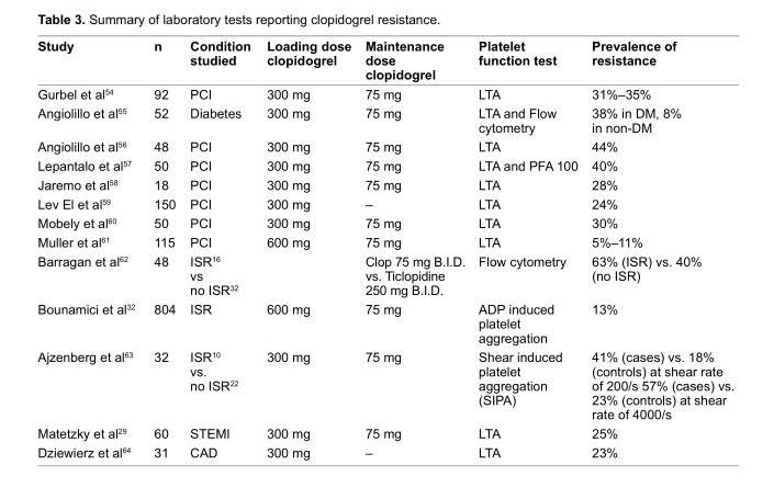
<table><thead><tr><td>study</td><td>n</td><td>condition studied</td><td>Loading dose clopidogrel</td><td>Maintenance dose clopidogrel</td><td>platelet function test</td><td>prevalence of resistance</td></tr></thead><tbody><tr><td>Gurbel et al<sup>54</sup></td><td>92</td><td>PCi</td><td>300 mg</td><td>75 mg</td><td>LTA</td><td>31%–35%</td></tr><tr><td>Angiolillo et al<sup>55</sup></td><td>52</td><td>Diabetes</td><td>300 mg</td><td>75 mg</td><td>LTA and Flow cytometry</td><td>38% in DM, 8% in non-DM</td></tr><tr><td>Angiolillo et al<sup>56</sup></td><td>48</td><td>PCi</td><td>300 mg</td><td>75 mg</td><td>LTA</td><td>44%</td></tr><tr><td>Lepantalo et al<sup>57</sup></td><td>50</td><td>PCi</td><td>300 mg</td><td>75 mg</td><td>LTA and PFA 100</td><td>40%</td></tr><tr><td>Jaremo et al<sup>58</sup></td><td>18</td><td>PCi</td><td>300 mg</td><td>75 mg</td><td>LTA</td><td>28%</td></tr><tr><td>Lev el et al<sup>59</sup></td><td>150</td><td>PCi</td><td>300 mg</td><td>–</td><td>LTA</td><td>24%</td></tr><tr><td>Mobely et al<sup>60</sup></td><td>50</td><td>PCi</td><td>300 mg</td><td>75 mg</td><td>LTA</td><td>30%</td></tr><tr><td>Muller et al<sup>61</sup></td><td>115</td><td>PCi</td><td>600 mg</td><td>75 mg</td><td>LTA</td><td>5%–11%</td></tr><tr><td>Barragan et al<sup>62</sup></td><td>48</td><td>iSR<sup>16</sup> vs no iSR<sup>32</sup></td><td></td><td>Clop 75 mg B.i.D. vs. Ticlopidine 250 mg B.i.D.</td><td>Flow cytometry</td><td>63% (iSR) vs. 40% (no iSR)</td></tr><tr><td>Bounamici et al<sup>32</sup></td><td>804</td><td>iSR</td><td>600 mg</td><td>75 mg</td><td>ADP induced platelet aggregation</td><td>13%</td></tr><tr><td>Ajzenberg et al<sup>63</sup></td><td>32</td><td>iSR<sup>10</sup> vs. no iSR<sup>22</sup></td><td>300 mg</td><td>75 mg</td><td>Shear induced platelet aggregation (SiPA)</td><td>41% (cases) vs. 18% (controls) at shear rate of 200/s 57% (cases) vs. 23% (controls) at shear rate of 4000/s</td></tr><tr><td>Matetzky et al<sup>29</sup></td><td>60</td><td>STeMi</td><td>300 mg</td><td>75 mg</td><td>LTA</td><td>25%</td></tr><tr><td>Dziewierz et al<sup>64</sup></td><td>31</td><td>CAD</td><td>300 mg</td><td>–</td><td>LTA</td><td>23%</td></tr></tbody></table>